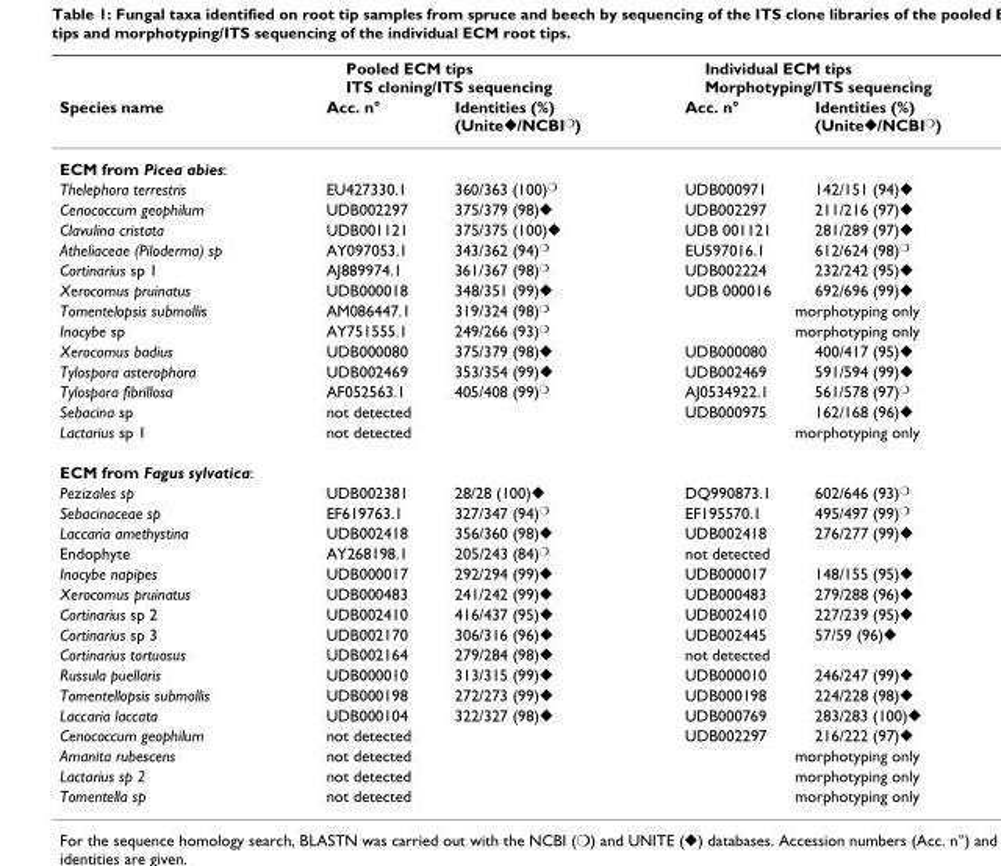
<table><thead><tr><td rowspan="2">Species name</td><td colspan="2">Pooled ECM tips ITS cloning/ITS sequencing</td><td colspan="2">Individual ECM tips Morphotyping/ITS sequencing</td></tr><tr><td>Acc. n°</td><td>Identities (%) (Unite�/NCBI❍)</td><td>Acc. n°</td><td>Identities (%) (Unite�/NCBI❍)</td></tr></thead><tbody><tr><td colspan="5">ECM from Picea abies:</td></tr><tr><td>Thelephora terrestris</td><td>EU427330.1</td><td>360/363 (100)❍</td><td>UDB000971</td><td>142/151 (94)<sup>◆</sup></td></tr><tr><td>Cenococcum geophilum</td><td>UDB002297</td><td>375/379 (98)<sup>◆</sup></td><td>UDB002297</td><td>211/216 (97)<sup>◆</sup></td></tr><tr><td>Clavulina cristata</td><td>UDB001121</td><td>375/375 (100)<sup>◆</sup></td><td>UDB 001121</td><td>281/289 (97)<sup>◆</sup></td></tr><tr><td>Atheliaceae (Piloderma) sp</td><td>AY097053.1</td><td>343/362 (94)❍</td><td>EU597016.1</td><td>612/624 (98)❍</td></tr><tr><td>Cortinarius sp 1</td><td>AJ889974.1</td><td>361/367 (98)❍</td><td>UDB002224</td><td>232/242 (95)<sup>◆</sup></td></tr><tr><td>Xerocomus pruinatus</td><td>UDB000018</td><td>348/351 (99)<sup>◆</sup></td><td>UDB 000016</td><td>692/696 (99)<sup>◆</sup></td></tr><tr><td>Tomentelopsis submollis</td><td>AM086447.1</td><td>319/324 (98)❍</td><td colspan="2">morphotyping only</td></tr><tr><td>Inocybe sp</td><td>AY751555.1</td><td>249/266 (93)❍</td><td colspan="2">morphotyping only</td></tr><tr><td>Xerocomus badius</td><td>UDB000080</td><td>375/379 (98)<sup>◆</sup></td><td>UDB000080</td><td>400/417 (95)<sup>◆</sup></td></tr><tr><td>Tylospora asterophora</td><td>UDB002469</td><td>353/354 (99)<sup>◆</sup></td><td>UDB002469</td><td>591/594 (99)<sup>◆</sup></td></tr><tr><td>Tylospora fibrillosa</td><td>AF052563.1</td><td>405/408 (99)❍</td><td>AJ0534922.1</td><td>561/578 (97)❍</td></tr><tr><td>Sebacina sp</td><td>not detected</td><td></td><td>UDB000975</td><td>162/168 (96)<sup>◆</sup></td></tr><tr><td>Lactarius sp 1</td><td>not detected</td><td></td><td colspan="2">morphotyping only</td></tr><tr><td colspan="5">ECM from Fagus sylvatica:</td></tr><tr><td>Pezizales sp</td><td>UDB002381</td><td>28/28 (100)<sup>◆</sup></td><td>DQ990873.1</td><td>602/646 (93)❍</td></tr><tr><td>Sebacinaceae sp</td><td>EF619763.1</td><td>327/347 (94)❍</td><td>EF195570.1</td><td>495/497 (99)❍</td></tr><tr><td>Laccaria amethystina</td><td>UDB002418</td><td>356/360 (98)<sup>◆</sup></td><td>UDB002418</td><td>276/277 (99)<sup>◆</sup></td></tr><tr><td>Endophyte</td><td>AY268198.1</td><td>205/243 (84)❍</td><td>not detected</td><td></td></tr><tr><td>Inocybe napipes</td><td>UDB000017</td><td>292/294 (99)<sup>◆</sup></td><td>UDB000017</td><td>148/155 (95)<sup>◆</sup></td></tr><tr><td>Xerocomus pruinatus</td><td>UDB000483</td><td>241/242 (99)<sup>◆</sup></td><td>UDB000483</td><td>279/288 (96)<sup>◆</sup></td></tr><tr><td>Cortinarius sp 2</td><td>UDB002410</td><td>416/437 (95)<sup>◆</sup></td><td>UDB002410</td><td>227/239 (95)<sup>◆</sup></td></tr><tr><td>Cortinarius sp 3</td><td>UDB002170</td><td>306/316 (96)<sup>◆</sup></td><td>UDB002445</td><td>57/59 (96)<sup>◆</sup></td></tr><tr><td>Cortinarius tortuosus</td><td>UDB002164</td><td>279/284 (98)<sup>◆</sup></td><td>not detected</td><td></td></tr><tr><td>Russula puellaris</td><td>UDB000010</td><td>313/315 (99)<sup>◆</sup></td><td>UDB000010</td><td>246/247 (99)<sup>◆</sup></td></tr><tr><td>Tomentellopsis submollis</td><td>UDB000198</td><td>272/273 (99)<sup>◆</sup></td><td>UDB000198</td><td>224/228 (98)<sup>◆</sup></td></tr><tr><td>Laccaria laccata</td><td>UDB000104</td><td>322/327 (98)<sup>◆</sup></td><td>UDB000769</td><td>283/283 (100)<sup>◆</sup></td></tr><tr><td>Cenococcum geophilum</td><td>not detected</td><td></td><td>UDB002297</td><td>216/222 (97)<sup>◆</sup></td></tr><tr><td>Amanita rubescens</td><td>not detected</td><td></td><td colspan="2">morphotyping only</td></tr><tr><td>Lactarius sp 2</td><td>not detected</td><td></td><td colspan="2">morphotyping only</td></tr><tr><td>Tomentella sp</td><td>not detected</td><td></td><td colspan="2">morphotyping only</td></tr></tbody></table>